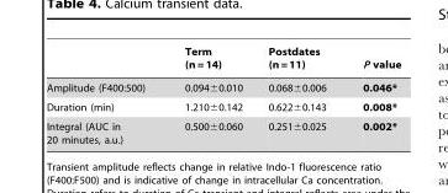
<table><thead><tr><td></td><td>Term (n = 14)</td><td>Postdates (n = 11)</td><td>P value</td></tr></thead><tbody><tr><td>Amplitude (F400:500)</td><td>0.094±0.010</td><td>0.068±0.006</td><td>0.046*</td></tr><tr><td>Duration (min)</td><td>1.210±0.142</td><td>0.622±0.143</td><td>0.008*</td></tr><tr><td>Integral (AUC in 20 minutes, a.u.)</td><td>0.500±0.060</td><td>0.251±0.025</td><td>0.002*</td></tr></tbody></table>